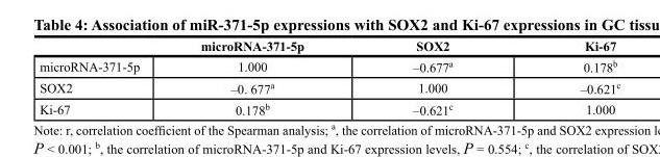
<table><thead><tr><td></td><td>microRNA-371-5p</td><td>SOX2</td><td>Ki-67</td></tr></thead><tbody><tr><td>microRNA-371-5p</td><td>1.000</td><td>–0.677a</td><td>0.178b</td></tr><tr><td>SOX2</td><td>–0. 677a</td><td>1.000</td><td>–0.621c</td></tr><tr><td>Ki-67</td><td>0.178b</td><td>–0.621c</td><td>1.000</td></tr></tbody></table>